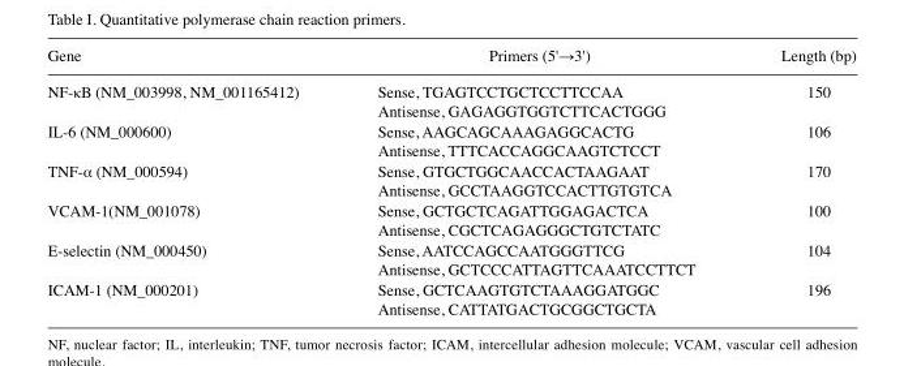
<table><thead><tr><td>Gene</td><td>Primers (5&#x27;→3&#x27;)</td><td>Length (bp)</td></tr></thead><tbody><tr><td>NF-κB (NM_003998, NM_001165412)</td><td>Sense, TGAGTCCTGCTCCTTCCAA Antisense, GAGAGGTGGTCTTCACTGGG</td><td>150</td></tr><tr><td>IL-6 (NM_000600)</td><td>Sense, AAGCAGCAAAGAGGCACTG Antisense, TTTCACCAGGCAAGTCTCCT</td><td>106</td></tr><tr><td>TNF-α (NM_000594)</td><td>Sense, GTGCTGGCAACCACTAAGAAT Antisense, GCCTAAGGTCCACTTGTGTCA</td><td>170</td></tr><tr><td>VCAM-1(NM_001078)</td><td>Sense, GCTGCTCAGATTGGAGACTCA Antisense, CGCTCAGAGGGCTGTCTATC</td><td>100</td></tr><tr><td>E-selectin (NM_000450)</td><td>Sense, AATCCAGCCAATGGGTTCG Antisense, GCTCCCATTAGTTCAAATCCTTCT</td><td>104</td></tr><tr><td>ICAM-1 (NM_000201)</td><td>Sense, GCTCAAGTGTCTAAAGGATGGC Antisense, CATTATGACTGCGGCTGCTA</td><td>196</td></tr></tbody></table>